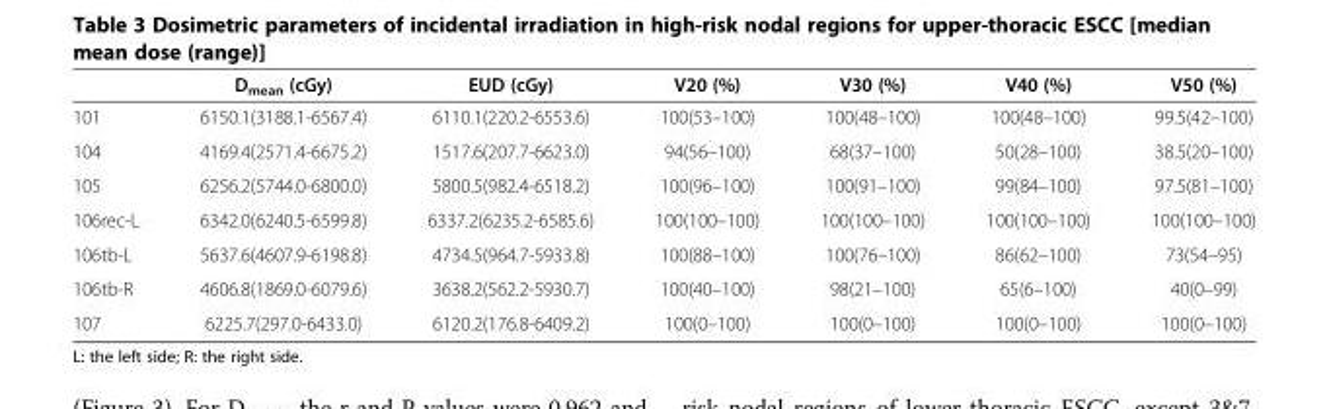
<table><thead><tr><td></td><td>D<sub>mean</sub> (cGy)</td><td>EUD (cGy)</td><td>V20 (%)</td><td>V30 (%)</td><td>V40 (%)</td><td>V50 (%)</td></tr></thead><tbody><tr><td>101</td><td>6150.1(3188.1-6567.4)</td><td>6110.1(220.2-6553.6)</td><td>100(53–100)</td><td>100(48–100)</td><td>100(48–100)</td><td>99.5(42–100)</td></tr><tr><td>104</td><td>4169.4(2571.4-6675.2)</td><td>1517.6(207.7-6623.0)</td><td>94(56–100)</td><td>68(37–100)</td><td>50(28–100)</td><td>38.5(20–100)</td></tr><tr><td>105</td><td>6256.2(5744.0-6800.0)</td><td>5800.5(982.4-6518.2)</td><td>100(96–100)</td><td>100(91–100)</td><td>99(84–100)</td><td>97.5(81–100)</td></tr><tr><td>106rec-L</td><td>6342.0(6240.5-6599.8)</td><td>6337.2(6235.2-6585.6)</td><td>100(100–100)</td><td>100(100–100)</td><td>100(100–100)</td><td>100(100–100)</td></tr><tr><td>106tb-L</td><td>5637.6(4607.9-6198.8)</td><td>4734.5(964.7-5933.8)</td><td>100(88–100)</td><td>100(76–100)</td><td>86(62–100)</td><td>73(54–95)</td></tr><tr><td>106tb-R</td><td>4606.8(1869.0-6079.6)</td><td>3638.2(562.2-5930.7)</td><td>100(40–100)</td><td>98(21–100)</td><td>65(6–100)</td><td>40(0–99)</td></tr><tr><td>107</td><td>6225.7(297.0-6433.0)</td><td>6120.2(176.8-6409.2)</td><td>100(0–100)</td><td>100(0–100)</td><td>100(0–100)</td><td>100(0–100)</td></tr></tbody></table>